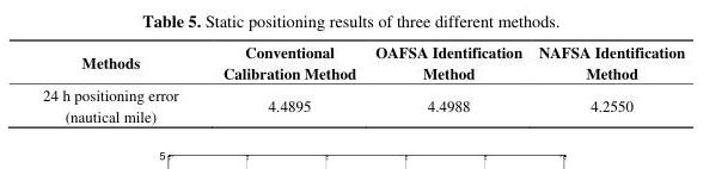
<table><thead><tr><td>Methods</td><td>Conventional Calibration Method</td><td>OAFSA Identification Method</td><td>NAFSA Identification Method</td></tr></thead><tbody><tr><td>24 h positioning error (nautical mile)</td><td>4.4895</td><td>4.4988</td><td>4.2550</td></tr></tbody></table>